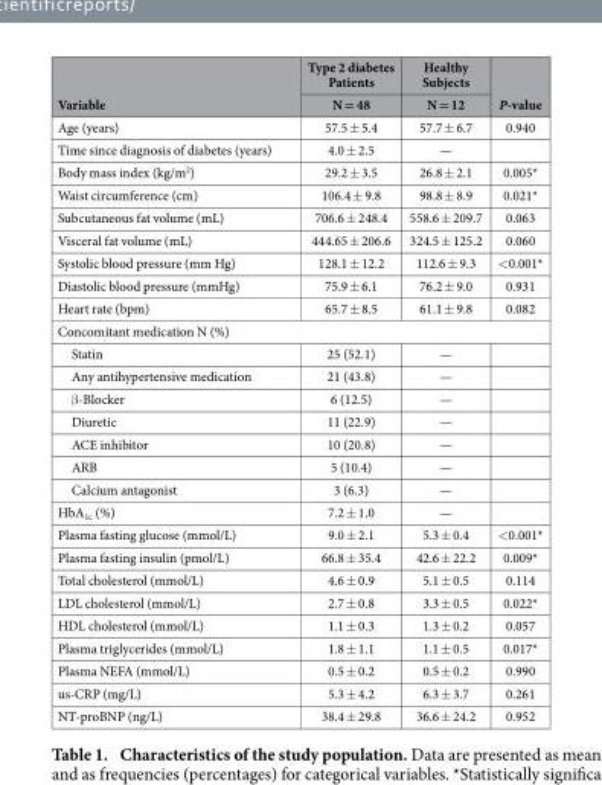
<table><thead><tr><td rowspan="2">Variable</td><td rowspan="2">Type 2 diabetes Patients N = 48</td><td rowspan="2">Healthy Subjects N = 12</td><td rowspan="2">P-value</td></tr><tr></tr></thead><tbody><tr><td>Age (years)</td><td>57.5 ± 5.4</td><td>57.7 ± 6.7</td><td>0.940</td></tr><tr><td>Time since diagnosis of diabetes (years)</td><td>4.0 ± 2.5</td><td>—</td><td></td></tr><tr><td>Body mass index (kg/m<sup>2</sup>)</td><td>29.2 ± 3.5</td><td>26.8 ± 2.1</td><td>0.005*</td></tr><tr><td>Waist circumference (cm)</td><td>106.4 ± 9.8</td><td>98.8 ± 8.9</td><td>0.021*</td></tr><tr><td>Subcutaneous fat volume (mL)</td><td>706.6 ± 248.4</td><td>558.6 ± 209.7</td><td>0.063</td></tr><tr><td>Visceral fat volume (mL)</td><td>444.65 ± 206.6</td><td>324.5 ± 125.2</td><td>0.060</td></tr><tr><td>Systolic blood pressure (mm Hg)</td><td>128.1 ± 12.2</td><td>112.6 ± 9.3</td><td>&lt; 0.001*</td></tr><tr><td>Diastolic blood pressure (mmHg)</td><td>75.9 ± 6.1</td><td>76.2 ± 9.0</td><td>0.931</td></tr><tr><td>Heart rate (bpm)</td><td>65.7 ± 8.5</td><td>61.1 ± 9.8</td><td>0.082</td></tr><tr><td colspan="4">Concomitant medication N (%)</td></tr><tr><td>Statin</td><td>25 (52.1)</td><td>—</td><td></td></tr><tr><td>Any antihypertensive medication</td><td>21 (43.8)</td><td>—</td><td></td></tr><tr><td>β -Blocker</td><td>6 (12.5)</td><td>—</td><td></td></tr><tr><td>Diuretic</td><td>11 (22.9)</td><td>—</td><td></td></tr><tr><td>ACE inhibitor</td><td>10 (20.8)</td><td>—</td><td></td></tr><tr><td>ARB</td><td>5 (10.4)</td><td>—</td><td></td></tr><tr><td>Calcium antagonist</td><td>3 (6.3)</td><td>—</td><td></td></tr><tr><td>HbA<sub>1c</sub> (%)</td><td>7.2 ± 1.0</td><td>—</td><td></td></tr><tr><td>Plasma fasting glucose (mmol/L)</td><td>9.0 ± 2.1</td><td>5.3 ± 0.4</td><td>&lt; 0.001*</td></tr><tr><td>Plasma fasting insulin (pmol/L)</td><td>66.8 ± 35.4</td><td>42.6 ± 22.2</td><td>0.009*</td></tr><tr><td>Total cholesterol (mmol/L)</td><td>4.6 ± 0.9</td><td>5.1 ± 0.5</td><td>0.114</td></tr><tr><td>LDL cholesterol (mmol/L)</td><td>2.7 ± 0.8</td><td>3.3 ± 0.5</td><td>0.022*</td></tr><tr><td>HDL cholesterol (mmol/L)</td><td>1.1 ± 0.3</td><td>1.3 ± 0.2</td><td>0.057</td></tr><tr><td>Plasma triglycerides (mmol/L)</td><td>1.8 ± 1.1</td><td>1.1 ± 0.5</td><td>0.017*</td></tr><tr><td>Plasma NEFA (mmol/L)</td><td>0.5 ± 0.2</td><td>0.5 ± 0.2</td><td>0.990</td></tr><tr><td>us-CRP (mg/L)</td><td>5.3 ± 4.2</td><td>6.3 ± 3.7</td><td>0.261</td></tr><tr><td>NT-proBNP (ng/L)</td><td>38.4 ± 29.8</td><td>36.6 ± 24.2</td><td>0.952</td></tr></tbody></table>